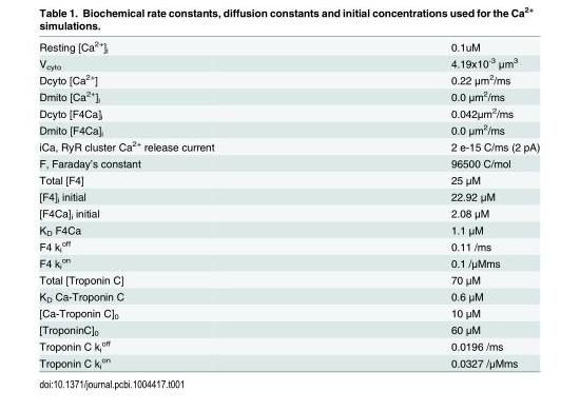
<table><tbody><tr><td>Resting [Ca<sup>2+</sup>]<sub>i</sub></td><td>0.1uM</td></tr><tr><td>V<sub>cyto</sub></td><td>4.19x10<sup>-3</sup> μm<sup>3</sup></td></tr><tr><td>Dcyto [Ca<sup>2+</sup>]</td><td>0.22 μm<sup>2</sup>/ms</td></tr><tr><td>Dmito [Ca<sup>2+</sup>]<sub>i</sub></td><td>0.0 μm<sup>2</sup>/ms</td></tr><tr><td>Dcyto [F4Ca]<sub>i</sub></td><td>0.042μm<sup>2</sup>/ms</td></tr><tr><td>Dmito [F4Ca]<sub>i</sub></td><td>0.0 μm<sup>2</sup>/ms</td></tr><tr><td>iCa, RyR cluster Ca<sup>2+</sup> release current</td><td>2 e-15 C/ms (2 pA)</td></tr><tr><td>F, Faraday’s constant</td><td>96500 C/mol</td></tr><tr><td>Total [F4]</td><td>25 μM</td></tr><tr><td>[F4]<sub>i</sub> initial</td><td>22.92 μM</td></tr><tr><td>[F4Ca]<sub>i</sub> initial</td><td>2.08 μM</td></tr><tr><td>K<sub>D</sub> F4Ca</td><td>1.1 μM</td></tr><tr><td>F4 k<sub>i</sub> <sup>off</sup></td><td>0.11 /ms</td></tr><tr><td>F4 k<sub>i</sub> <sup>on</sup></td><td>0.1 /μMms</td></tr><tr><td>Total [Troponin C]</td><td>70 μM</td></tr><tr><td>K<sub>D</sub> Ca-Troponin C</td><td>0.6 μM</td></tr><tr><td>[Ca-Troponin C]<sub>0</sub></td><td>10 μM</td></tr><tr><td>[TroponinC]<sub>0</sub></td><td>60 μM</td></tr><tr><td>Troponin C k<sub>i</sub> <sup>off</sup></td><td>0.0196 /ms</td></tr><tr><td>Troponin C k<sub>i</sub> <sup>on</sup></td><td>0.0327 /μMms</td></tr></tbody></table>